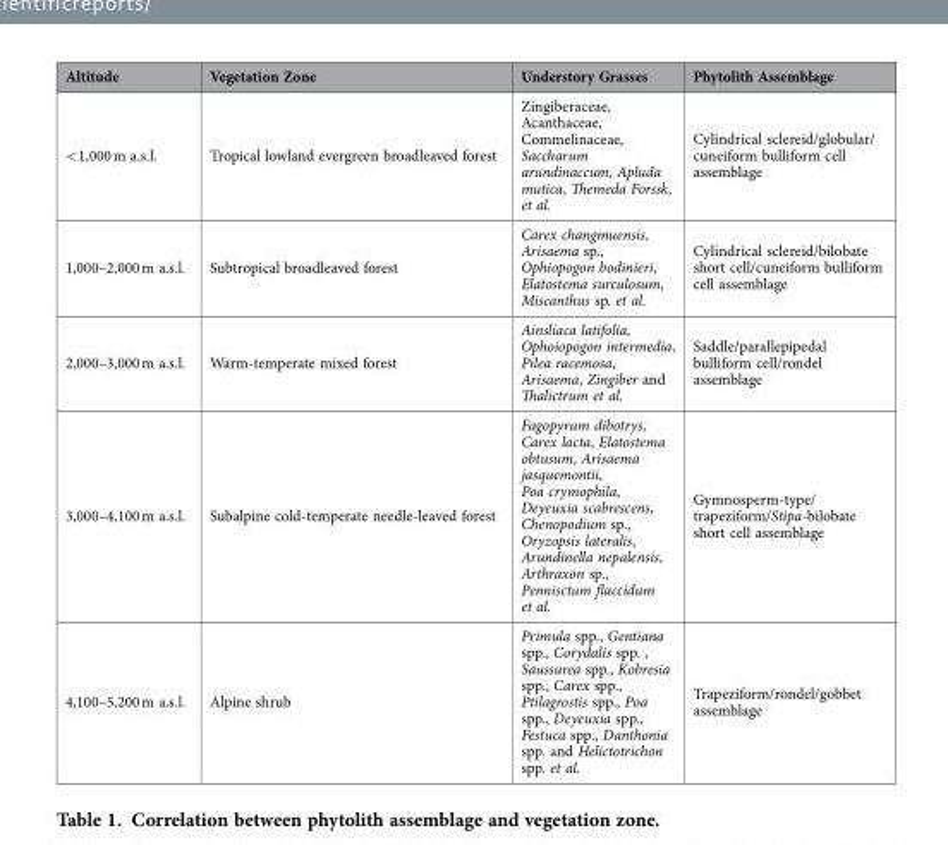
<table><thead><tr><td>Altitude</td><td>Vegetation Zone</td><td>Understory Grasses</td><td>Phytolith Assemblage</td></tr></thead><tbody><tr><td>&lt; 1,000 m a.s.l.</td><td>Tropical lowland evergreen broadleaved forest</td><td>Zingiberaceae, Acanthaceae, Commelinaceae, Saccharum arundinaccum, Apluda mutica, Themeda Forssk, et al.</td><td>Cylindrical sclereid/globular/ cuneiform bulliform cell assemblage</td></tr><tr><td>1,000–2,000 m a.s.l.</td><td>Subtropical broadleaved forest</td><td>Carex changmuensis, Arisaema sp., Ophiopogon bodinieri, Elatostema surculosum, Miscanthus sp. et al.</td><td>Cylindrical sclereid/bilobate short cell/cuneiform bulliform cell assemblage</td></tr><tr><td>2,000–3,000 m a.s.l.</td><td>Warm-temperate mixed forest</td><td>Ainsliaca latifolia, Ophoiopogon intermedia, Pilea racemosa, Arisaema, Zingiber and Thalictrum et al.</td><td>Saddle/parallepipedal bulliform cell/rondel assemblage</td></tr><tr><td>3,000–4,100 m a.s.l.</td><td>Subalpine cold-temperate needle-leaved forest</td><td>Fagopyrum dibotrys, Carex lacta, Elatostema obtusum, Arisaema jasquemontii, Poa crymophila, Deyeuxia scabrescens, Chenopodium sp., Oryzopsis lateralis, Arundinella nepalensis, Arthraxon sp., Pennisctum flaccidum et al.</td><td>Gymnosperm-type/ trapeziform/Stipa-bilobate short cell assemblage</td></tr><tr><td>4,100–5,200 m a.s.l.</td><td>Alpine shrub</td><td>Primula spp., Gentiana spp., Corydalis spp. , Saussurea spp., Kobresia spp., Carex spp., Ptilagrostis spp., Poa spp., Deyeuxia spp., Festuca spp., Danthonia spp. and Helictotrichon spp. et al.</td><td>Trapeziform/rondel/gobbet assemblage</td></tr></tbody></table>